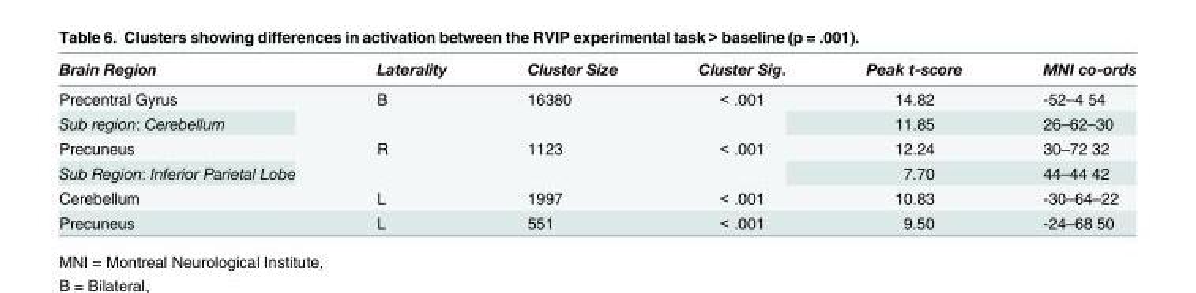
<table><thead><tr><td>Brain Region</td><td>Laterality</td><td>Cluster Size</td><td>Cluster Sig.</td><td>Peak t-score</td><td>MNI co-ords</td></tr></thead><tbody><tr><td>Precentral Gyrus</td><td rowspan="2">B</td><td rowspan="2">16380</td><td rowspan="2">&lt; .001</td><td>14.82</td><td>-52–4 54</td></tr><tr><td>Sub region: Cerebellum</td><td>11.85</td><td>26–62–30</td></tr><tr><td>Precuneus</td><td rowspan="2">R</td><td rowspan="2">1123</td><td rowspan="2">&lt; .001</td><td>12.24</td><td>30–72 32</td></tr><tr><td>Sub Region: Inferior Parietal Lobe</td><td>7.70</td><td>44–44 42</td></tr><tr><td>Cerebellum</td><td>L</td><td>1997</td><td>&lt; .001</td><td>10.83</td><td>-30–64–22</td></tr><tr><td>Precuneus</td><td>L</td><td>551</td><td>&lt; .001</td><td>9.50</td><td>-24–68 50</td></tr></tbody></table>